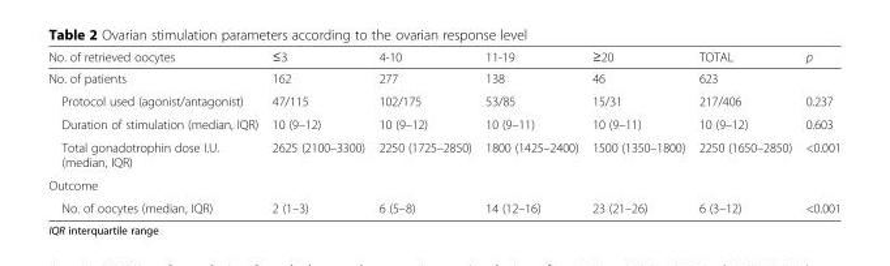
<table><thead><tr><td>No. of retrieved oocytes</td><td>≤3</td><td>4-10</td><td>11-19</td><td>≥20</td><td>TOTAL</td><td>p</td></tr></thead><tbody><tr><td>No. of patients</td><td>162</td><td>277</td><td>138</td><td>46</td><td>623</td><td></td></tr><tr><td>Protocol used (agonist/antagonist)</td><td>47/115</td><td>102/175</td><td>53/85</td><td>15/31</td><td>217/406</td><td>0.237</td></tr><tr><td>Duration of stimulation (median, IQR)</td><td>10 (9–12)</td><td>10 (9–12)</td><td>10 (9–11)</td><td>10 (9–11)</td><td>10 (9–12)</td><td>0.603</td></tr><tr><td>Total gonadotrophin dose I.U. (median, IQR)</td><td>2625 (2100–3300)</td><td>2250 (1725–2850)</td><td>1800 (1425–2400)</td><td>1500 (1350–1800)</td><td>2250 (1650–2850)</td><td>&lt;0.001</td></tr><tr><td colspan="7">Outcome</td></tr><tr><td>No. of oocytes (median, IQR)</td><td>2 (1–3)</td><td>6 (5–8)</td><td>14 (12–16)</td><td>23 (21–26)</td><td>6 (3–12)</td><td>&lt;0.001</td></tr></tbody></table>